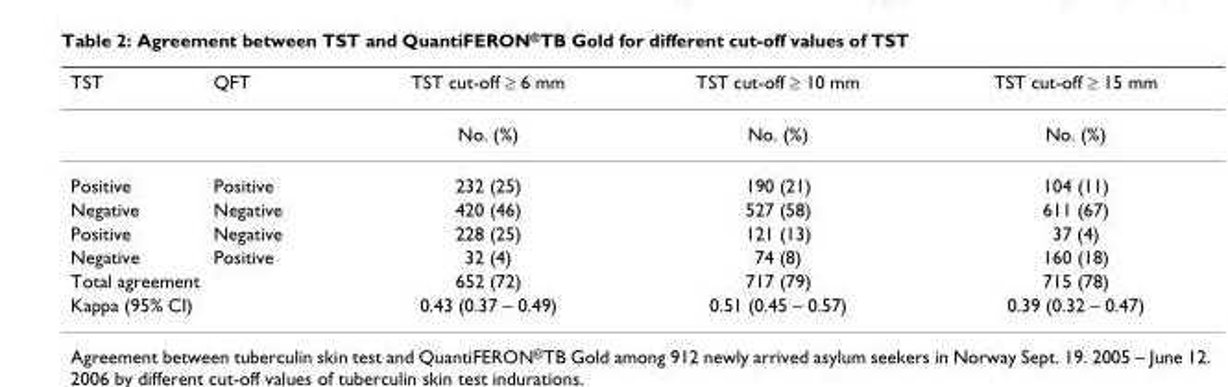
<table><thead><tr><td>TST</td><td>QFT</td><td>TST cut-off ≥ 6 mm</td><td>TST cut-off ≥ 10 mm</td><td>TST cut-off ≥ 15 mm</td></tr></thead><tbody><tr><td></td><td></td><td>No. (%)</td><td>No. (%)</td><td>No. (%)</td></tr><tr><td>Positive</td><td>Positive</td><td>232 (25)</td><td>190 (21)</td><td>104 (11)</td></tr><tr><td>Negative</td><td>Negative</td><td>420 (46)</td><td>527 (58)</td><td>611 (67)</td></tr><tr><td>Positive</td><td>Negative</td><td>228 (25)</td><td>121 (13)</td><td>37 (4)</td></tr><tr><td>Negative</td><td>Positive</td><td>32 (4)</td><td>74 (8)</td><td>160 (18)</td></tr><tr><td colspan="2">Total agreement</td><td>652 (72)</td><td>717 (79)</td><td>715 (78)</td></tr><tr><td colspan="2">Kappa (95% CI)</td><td>0.43 (0.37 – 0.49)</td><td>0.51 (0.45 – 0.57)</td><td>0.39 (0.32 – 0.47)</td></tr></tbody></table>